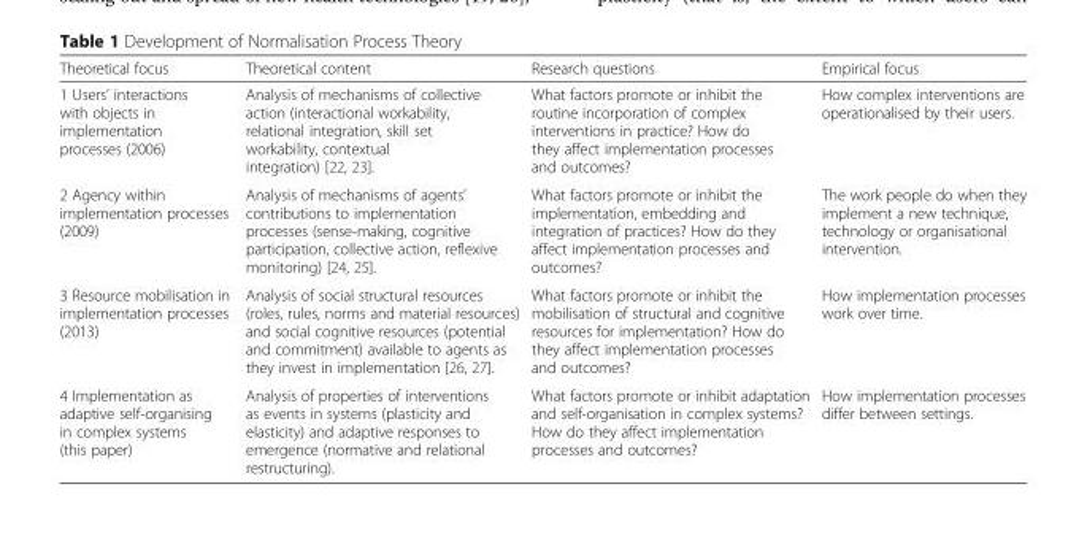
<table><thead><tr><td>Theoretical focus</td><td>Theoretical content</td><td>Research questions</td><td>Empirical focus</td></tr></thead><tbody><tr><td>1 Users’ interactions with objects in implementation processes (2006)</td><td>Analysis of mechanisms of collective action (interactional workability, relational integration, skill set workability, contextual integration) [22, 23].</td><td>What factors promote or inhibit the routine incorporation of complex interventions in practice? How do they affect implementation processes and outcomes?</td><td>How complex interventions are operationalised by their users.</td></tr><tr><td>2 Agency within implementation processes (2009)</td><td>Analysis of mechanisms of agents’ contributions to implementation processes (sense-making, cognitive participation, collective action, reflexive monitoring) [24, 25].</td><td>What factors promote or inhibit the implementation, embedding and integration of practices? How do they affect implementation processes and outcomes?</td><td>The work people do when they implement a new technique, technology or organisational intervention.</td></tr><tr><td>3 Resource mobilisation in implementation processes (2013)</td><td>Analysis of social structural resources (roles, rules, norms and material resources) and social cognitive resources (potential and commitment) available to agents as they invest in implementation [26, 27].</td><td>What factors promote or inhibit the mobilisation of structural and cognitive resources for implementation? How do they affect implementation processes and outcomes?</td><td>How implementation processes work over time.</td></tr><tr><td>4 Implementation as adaptive self-organising in complex systems (this paper)</td><td>Analysis of properties of interventions as events in systems (plasticity and elasticity) and adaptive responses to emergence (normative and relational restructuring).</td><td>What factors promote or inhibit adaptation and self-organisation in complex systems? How do they affect implementation processes and outcomes?</td><td>How implementation processes differ between settings.</td></tr></tbody></table>